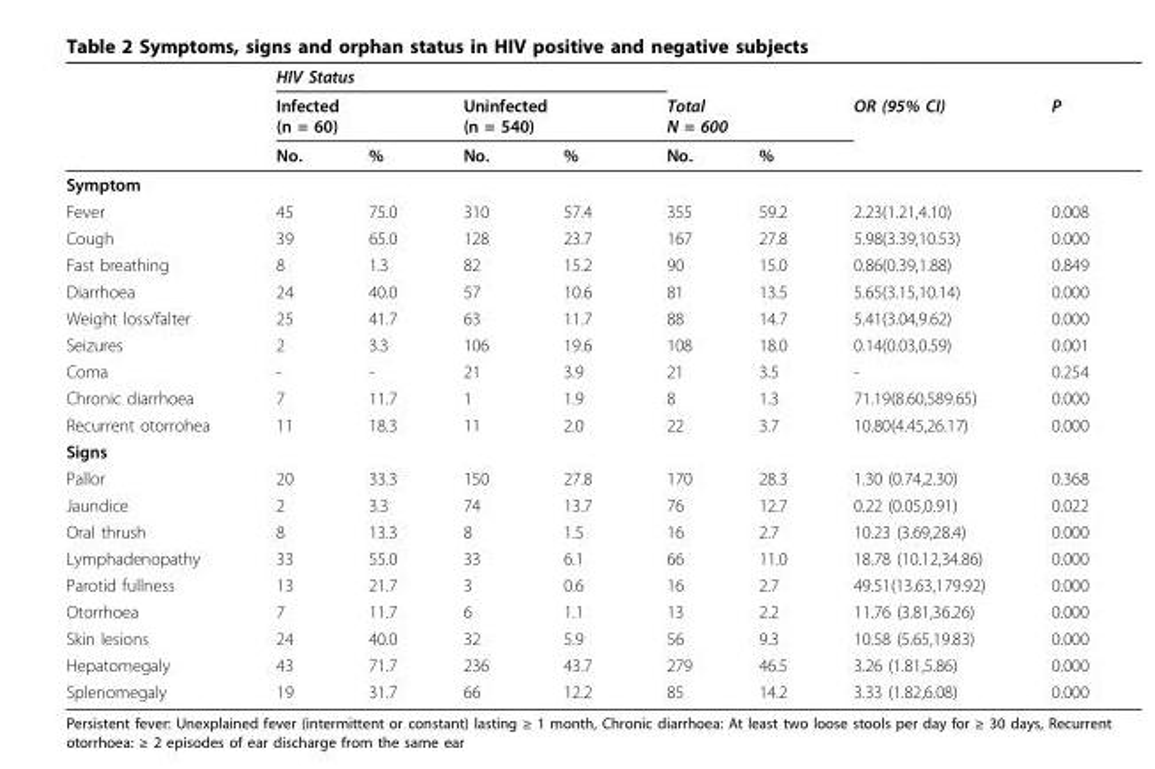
<table><thead><tr><td rowspan="3"></td><td colspan="4">HIV Status</td><td></td><td></td><td rowspan="3">OR (95% CI)</td><td rowspan="3">P</td></tr><tr><td colspan="2">Infected (n = 60)</td><td colspan="2">Uninfected (n = 540)</td><td colspan="2">Total N = 600</td></tr><tr><td>No.</td><td>%</td><td>No.</td><td>%</td><td>No.</td><td>%</td></tr></thead><tbody><tr><td colspan="9">Symptom</td></tr><tr><td>Fever</td><td>45</td><td>75.0</td><td>310</td><td>57.4</td><td>355</td><td>59.2</td><td>2.23(1.21,4.10)</td><td>0.008</td></tr><tr><td>Cough</td><td>39</td><td>65.0</td><td>128</td><td>23.7</td><td>167</td><td>27.8</td><td>5.98(3.39,10.53)</td><td>0.000</td></tr><tr><td>Fast breathing</td><td>8</td><td>1.3</td><td>82</td><td>15.2</td><td>90</td><td>15.0</td><td>0.86(0.39,1.88)</td><td>0.849</td></tr><tr><td>Diarrhoea</td><td>24</td><td>40.0</td><td>57</td><td>10.6</td><td>81</td><td>13.5</td><td>5.65(3.15,10.14)</td><td>0.000</td></tr><tr><td>Weight loss/falter</td><td>25</td><td>41.7</td><td>63</td><td>11.7</td><td>88</td><td>14.7</td><td>5.41(3.04,9.62)</td><td>0.000</td></tr><tr><td>Seizures</td><td>2</td><td>3.3</td><td>106</td><td>19.6</td><td>108</td><td>18.0</td><td>0.14(0.03,0.59)</td><td>0.001</td></tr><tr><td>Coma</td><td>-</td><td>-</td><td>21</td><td>3.9</td><td>21</td><td>3.5</td><td>-</td><td>0.254</td></tr><tr><td>Chronic diarrhoea</td><td>7</td><td>11.7</td><td>1</td><td>1.9</td><td>8</td><td>1.3</td><td>71.19(8.60,589.65)</td><td>0.000</td></tr><tr><td>Recurrent otorrohea</td><td>11</td><td>18.3</td><td>11</td><td>2.0</td><td>22</td><td>3.7</td><td>10.80(4.45,26.17)</td><td>0.000</td></tr><tr><td colspan="9">Signs</td></tr><tr><td>Pallor</td><td>20</td><td>33.3</td><td>150</td><td>27.8</td><td>170</td><td>28.3</td><td>1.30 (0.74,2.30)</td><td>0.368</td></tr><tr><td>Jaundice</td><td>2</td><td>3.3</td><td>74</td><td>13.7</td><td>76</td><td>12.7</td><td>0.22 (0.05,0.91)</td><td>0.022</td></tr><tr><td>Oral thrush</td><td>8</td><td>13.3</td><td>8</td><td>1.5</td><td>16</td><td>2.7</td><td>10.23 (3.69,28.4)</td><td>0.000</td></tr><tr><td>Lymphadenopathy</td><td>33</td><td>55.0</td><td>33</td><td>6.1</td><td>66</td><td>11.0</td><td>18.78 (10.12,34.86)</td><td>0.000</td></tr><tr><td>Parotid fullness</td><td>13</td><td>21.7</td><td>3</td><td>0.6</td><td>16</td><td>2.7</td><td>49.51(13.63,179.92)</td><td>0.000</td></tr><tr><td>Otorrhoea</td><td>7</td><td>11.7</td><td>6</td><td>1.1</td><td>13</td><td>2.2</td><td>11.76 (3.81,36.26)</td><td>0.000</td></tr><tr><td>Skin lesions</td><td>24</td><td>40.0</td><td>32</td><td>5.9</td><td>56</td><td>9.3</td><td>10.58 (5.65,19.83)</td><td>0.000</td></tr><tr><td>Hepatomegaly</td><td>43</td><td>71.7</td><td>236</td><td>43.7</td><td>279</td><td>46.5</td><td>3.26 (1.81,5.86)</td><td>0.000</td></tr><tr><td>Splenomegaly</td><td>19</td><td>31.7</td><td>66</td><td>12.2</td><td>85</td><td>14.2</td><td>3.33 (1.82,6.08)</td><td>0.000</td></tr></tbody></table>